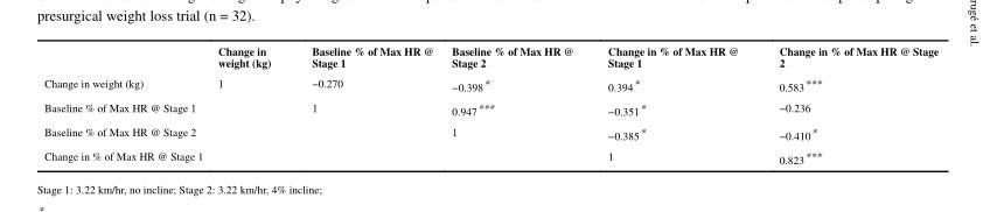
<table><thead><tr><td></td><td>Change in weight (kg)</td><td>Baseline % of Max HR @ Stage 1</td><td>Baseline % of Max HR @ Stage 2</td><td>Change in % of Max HR @ Stage 1</td><td>Change in % of Max HR @ Stage 2</td></tr></thead><tbody><tr><td>Change in weight (kg)</td><td>1</td><td>−0.270</td><td>−0.398*</td><td>0.394*</td><td>0.583***</td></tr><tr><td>Baseline % of Max HR @ Stage 1</td><td></td><td>1</td><td>0.947***</td><td>−0.351*</td><td>−0.236</td></tr><tr><td>Baseline % of Max HR @ Stage 2</td><td></td><td></td><td>1</td><td>−0.385*</td><td>−0.410*</td></tr><tr><td>Change in % of Max HR @ Stage 1</td><td></td><td></td><td></td><td>1</td><td>0.823***</td></tr></tbody></table>